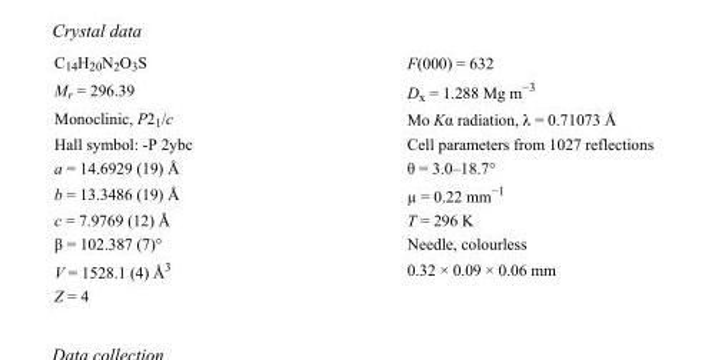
<table><tbody><tr><td>C<sub>14</sub>H<sub>20</sub>N<sub>2</sub>O<sub>3</sub>S</td><td>F(000) = 632</td></tr><tr><td>M<sub>r</sub> = 296.39</td><td>D<sub>x</sub> = 1.288 Mg m<sup>−3</sup></td></tr><tr><td>Monoclinic, P2<sub>1</sub>/c</td><td>Mo Kα radiation, λ = 0.71073 Å</td></tr><tr><td>Hall symbol: -P 2ybc</td><td>Cell parameters from 1027 reflections</td></tr><tr><td>a = 14.6929 (19) Å</td><td>θ = 3.0–18.7°</td></tr><tr><td>b = 13.3486 (19) Å</td><td>µ = 0.22 mm<sup>−1</sup></td></tr><tr><td>c = 7.9769 (12) Å</td><td>T = 296 K</td></tr><tr><td>β = 102.387 (7)°</td><td>Needle, colourless</td></tr><tr><td>V = 1528.1 (4) Å<sup>3</sup></td><td>0.32 × 0.09 × 0.06 mm</td></tr><tr><td>Z = 4</td><td></td></tr></tbody></table>